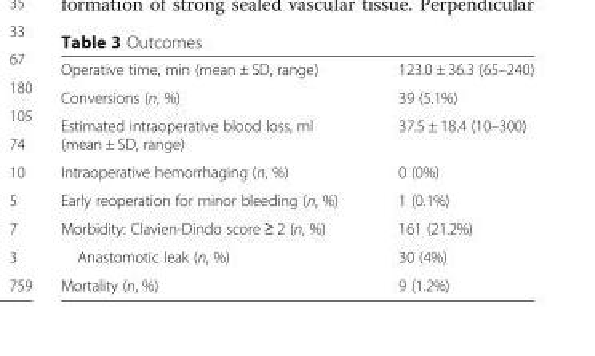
<table><tbody><tr><td>Operative time, min (mean ± SD, range)</td><td>123.0 ± 36.3 (65–240)</td></tr><tr><td>Conversions (n, %)</td><td>39 (5.1%)</td></tr><tr><td>Estimated intraoperative blood loss, ml (mean ± SD, range)</td><td>37.5 ± 18.4 (10–300)</td></tr><tr><td>Intraoperative hemorrhaging (n, %)</td><td>0 (0%)</td></tr><tr><td>Early reoperation for minor bleeding (n, %)</td><td>1 (0.1%)</td></tr><tr><td>Morbidity: Clavien-Dindo score ≥ 2 (n, %)</td><td>161 (21.2%)</td></tr><tr><td>Anastomotic leak (n, %)</td><td>30 (4%)</td></tr><tr><td>Mortality (n, %)</td><td>9 (1.2%)</td></tr></tbody></table>